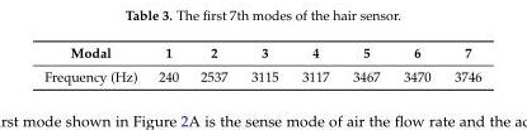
<table><thead><tr><td>Modal</td><td>1</td><td>2</td><td>3</td><td>4</td><td>5</td><td>6</td><td>7</td></tr></thead><tbody><tr><td>Frequency (Hz)</td><td>240</td><td>2537</td><td>3115</td><td>3117</td><td>3467</td><td>3470</td><td>3746</td></tr></tbody></table>